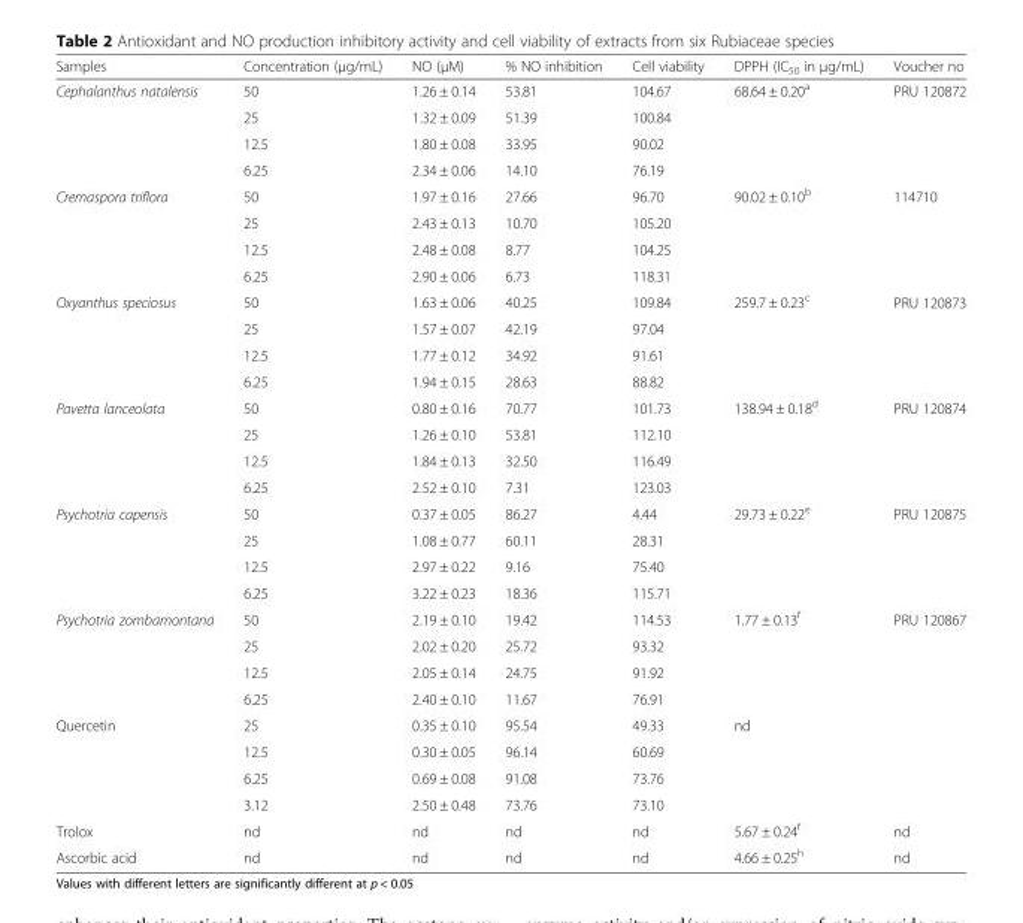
<table><thead><tr><td>Samples</td><td>Concentration (μg/mL)</td><td>NO (μM)</td><td>% NO inhibition</td><td>Cell viability</td><td>DPPH (IC<sub>50</sub> in μg/mL)</td><td>Voucher no</td></tr></thead><tbody><tr><td rowspan="4">Cephalanthus natalensis</td><td>50</td><td>1.26 ± 0.14</td><td>53.81</td><td>104.67</td><td rowspan="4">68.64 ± 0.20<sup>a</sup></td><td rowspan="4">PRU 120872</td></tr><tr><td>25</td><td>1.32 ± 0.09</td><td>51.39</td><td>100.84</td></tr><tr><td>12.5</td><td>1.80 ± 0.08</td><td>33.95</td><td>90.02</td></tr><tr><td>6.25</td><td>2.34 ± 0.06</td><td>14.10</td><td>76.19</td></tr><tr><td rowspan="4">Cremaspora triflora</td><td>50</td><td>1.97 ± 0.16</td><td>27.66</td><td>96.70</td><td rowspan="4">90.02 ± 0.10<sup>b</sup></td><td rowspan="4">114710</td></tr><tr><td>25</td><td>2.43 ± 0.13</td><td>10.70</td><td>105.20</td></tr><tr><td>12.5</td><td>2.48 ± 0.08</td><td>8.77</td><td>104.25</td></tr><tr><td>6.25</td><td>2.90 ± 0.06</td><td>6.73</td><td>118.31</td></tr><tr><td rowspan="4">Oxyanthus speciosus</td><td>50</td><td>1.63 ± 0.06</td><td>40.25</td><td>109.84</td><td rowspan="4">259.7 ± 0.23<sup>c</sup></td><td rowspan="4">PRU 120873</td></tr><tr><td>25</td><td>1.57 ± 0.07</td><td>42.19</td><td>97.04</td></tr><tr><td>12.5</td><td>1.77 ± 0.12</td><td>34.92</td><td>91.61</td></tr><tr><td>6.25</td><td>1.94 ± 0.15</td><td>28.63</td><td>88.82</td></tr><tr><td rowspan="4">Pavetta lanceolata</td><td>50</td><td>0.80 ± 0.16</td><td>70.77</td><td>101.73</td><td rowspan="4">138.94 ± 0.18<sup>d</sup></td><td rowspan="4">PRU 120874</td></tr><tr><td>25</td><td>1.26 ± 0.10</td><td>53.81</td><td>112.10</td></tr><tr><td>12.5</td><td>1.84 ± 0.13</td><td>32.50</td><td>116.49</td></tr><tr><td>6.25</td><td>2.52 ± 0.10</td><td>7.31</td><td>123.03</td></tr><tr><td rowspan="4">Psychotria capensis</td><td>50</td><td>0.37 ± 0.05</td><td>86.27</td><td>4.44</td><td rowspan="4">29.73 ± 0.22<sup>e</sup></td><td rowspan="4">PRU 120875</td></tr><tr><td>25</td><td>1.08 ± 0.77</td><td>60.11</td><td>28.31</td></tr><tr><td>12.5</td><td>2.97 ± 0.22</td><td>9.16</td><td>75.40</td></tr><tr><td>6.25</td><td>3.22 ± 0.23</td><td>18.36</td><td>115.71</td></tr><tr><td rowspan="4">Psychotria zombamontana</td><td>50</td><td>2.19 ± 0.10</td><td>19.42</td><td>114.53</td><td rowspan="4">1.77 ± 0.13<sup>f</sup></td><td rowspan="4">PRU 120867</td></tr><tr><td>25</td><td>2.02 ± 0.20</td><td>25.72</td><td>93.32</td></tr><tr><td>12.5</td><td>2.05 ± 0.14</td><td>24.75</td><td>91.92</td></tr><tr><td>6.25</td><td>2.40 ± 0.10</td><td>11.67</td><td>76.91</td></tr><tr><td rowspan="4">Quercetin</td><td>25</td><td>0.35 ± 0.10</td><td>95.54</td><td>49.33</td><td rowspan="4">nd</td><td rowspan="4"></td></tr><tr><td>12.5</td><td>0.30 ± 0.05</td><td>96.14</td><td>60.69</td></tr><tr><td>6.25</td><td>0.69 ± 0.08</td><td>91.08</td><td>73.76</td></tr><tr><td>3.12</td><td>2.50 ± 0.48</td><td>73.76</td><td>73.10</td></tr><tr><td>Trolox</td><td>nd</td><td>nd</td><td>nd</td><td>nd</td><td>5.67 ± 0.24<sup>f</sup></td><td>nd</td></tr><tr><td>Ascorbic acid</td><td>nd</td><td>nd</td><td>nd</td><td>nd</td><td>4.66 ± 0.25<sup>h</sup></td><td>nd</td></tr></tbody></table>